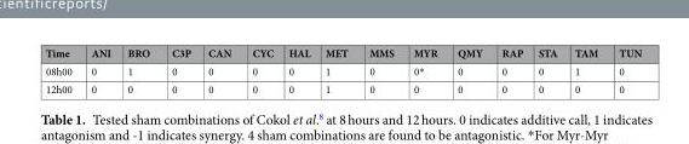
<table><thead><tr><td>Time</td><td>ANI</td><td>BRO</td><td>C3P</td><td>CAN</td><td>CYC</td><td>HAL</td><td>MET</td><td>MMS</td><td>MYR</td><td>QMY</td><td>RAP</td><td>STA</td><td>TAM</td><td>TUN</td></tr></thead><tbody><tr><td>08h00</td><td>0</td><td>1</td><td>0</td><td>0</td><td>0</td><td>0</td><td>1</td><td>0</td><td>0*</td><td>0</td><td>0</td><td>0</td><td>1</td><td>0</td></tr><tr><td>12h00</td><td>0</td><td>0</td><td>0</td><td>0</td><td>0</td><td>0</td><td>1</td><td>0</td><td>0</td><td>0</td><td>0</td><td>0</td><td>0</td><td>0</td></tr></tbody></table>